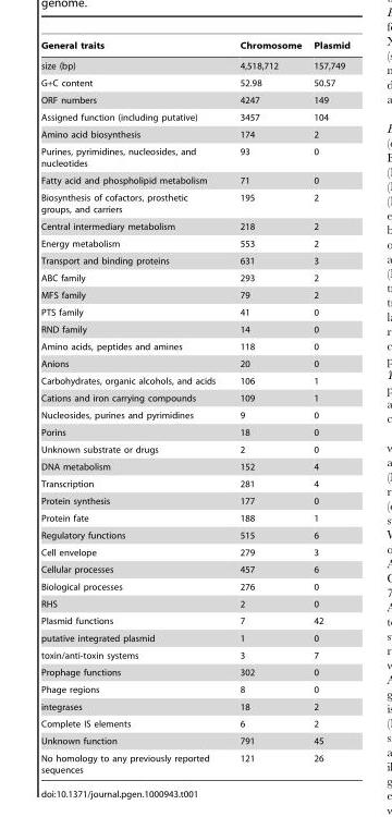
<table><thead><tr><td>General traits</td><td>Chromosome</td><td>Plasmid</td></tr></thead><tbody><tr><td>size (bp)</td><td>4,518,712</td><td>157,749</td></tr><tr><td>G+C content</td><td>52.98</td><td>50.57</td></tr><tr><td>ORF numbers</td><td>4247</td><td>149</td></tr><tr><td>Assigned function (including putative)</td><td>3457</td><td>104</td></tr><tr><td>Amino acid biosynthesis</td><td>174</td><td>2</td></tr><tr><td>Purines, pyrimidines, nucleosides, and nucleotides</td><td>93</td><td>0</td></tr><tr><td>Fatty acid and phospholipid metabolism</td><td>71</td><td>0</td></tr><tr><td>Biosynthesis of cofactors, prosthetic groups, and carriers</td><td>195</td><td>2</td></tr><tr><td>Central intermediary metabolism</td><td>218</td><td>2</td></tr><tr><td>Energy metabolism</td><td>553</td><td>2</td></tr><tr><td>Transport and binding proteins</td><td>631</td><td>3</td></tr><tr><td>ABC family</td><td>293</td><td>2</td></tr><tr><td>MFS family</td><td>79</td><td>2</td></tr><tr><td>PTS family</td><td>41</td><td>0</td></tr><tr><td>RND family</td><td>14</td><td>0</td></tr><tr><td>Amino acids, peptides and amines</td><td>118</td><td>0</td></tr><tr><td>Anions</td><td>20</td><td>0</td></tr><tr><td>Carbohydrates, organic alcohols, and acids</td><td>106</td><td>1</td></tr><tr><td>Cations and iron carrying compounds</td><td>109</td><td>1</td></tr><tr><td>Nucleosides, purines and pyrimidines</td><td>9</td><td>0</td></tr><tr><td>Porins</td><td>18</td><td>0</td></tr><tr><td>Unknown substrate or drugs</td><td>2</td><td>0</td></tr><tr><td>DNA metabolism</td><td>152</td><td>4</td></tr><tr><td>Transcription</td><td>281</td><td>4</td></tr><tr><td>Protein synthesis</td><td>177</td><td>0</td></tr><tr><td>Protein fate</td><td>188</td><td>1</td></tr><tr><td>Regulatory functions</td><td>515</td><td>6</td></tr><tr><td>Cell envelope</td><td>279</td><td>3</td></tr><tr><td>Cellular processes</td><td>457</td><td>6</td></tr><tr><td>Biological processes</td><td>276</td><td>0</td></tr><tr><td>RHS</td><td>2</td><td>0</td></tr><tr><td>Plasmid functions</td><td>7</td><td>42</td></tr><tr><td>putative integrated plasmid</td><td>1</td><td>0</td></tr><tr><td>toxin/anti-toxin systems</td><td>3</td><td>7</td></tr><tr><td>Prophage functions</td><td>302</td><td>0</td></tr><tr><td>Phage regions</td><td>8</td><td>0</td></tr><tr><td>integrases</td><td>18</td><td>2</td></tr><tr><td>Complete IS elements</td><td>6</td><td>2</td></tr><tr><td>Unknown function</td><td>791</td><td>45</td></tr><tr><td>No homology to any previously reported sequences</td><td>121</td><td>26</td></tr></tbody></table>